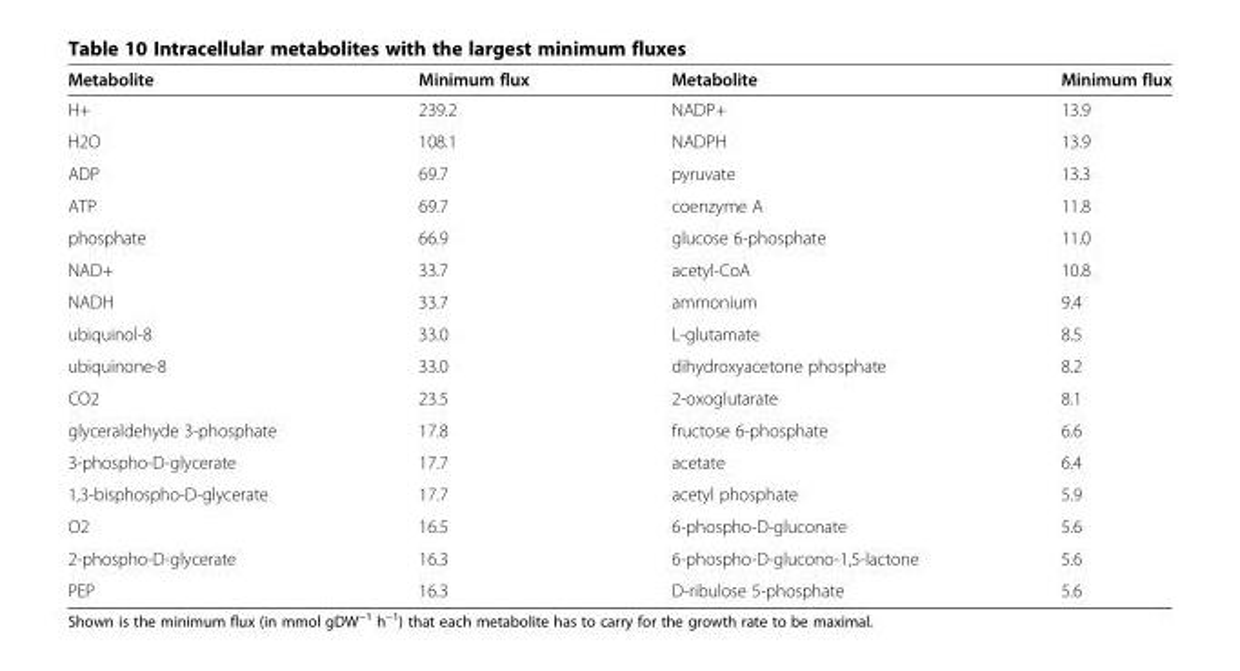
<table><thead><tr><td>Metabolite</td><td>Minimum flux</td><td>Metabolite</td><td>Minimum flux</td></tr></thead><tbody><tr><td>H+</td><td>239.2</td><td>NADP+</td><td>13.9</td></tr><tr><td>H2O</td><td>108.1</td><td>NADPH</td><td>13.9</td></tr><tr><td>ADP</td><td>69.7</td><td>pyruvate</td><td>13.3</td></tr><tr><td>ATP</td><td>69.7</td><td>coenzyme A</td><td>11.8</td></tr><tr><td>phosphate</td><td>66.9</td><td>glucose 6-phosphate</td><td>11.0</td></tr><tr><td>NAD+</td><td>33.7</td><td>acetyl-CoA</td><td>10.8</td></tr><tr><td>NADH</td><td>33.7</td><td>ammonium</td><td>9.4</td></tr><tr><td>ubiquinol-8</td><td>33.0</td><td>L-glutamate</td><td>8.5</td></tr><tr><td>ubiquinone-8</td><td>33.0</td><td>dihydroxyacetone phosphate</td><td>8.2</td></tr><tr><td>CO2</td><td>23.5</td><td>2-oxoglutarate</td><td>8.1</td></tr><tr><td>glyceraldehyde 3-phosphate</td><td>17.8</td><td>fructose 6-phosphate</td><td>6.6</td></tr><tr><td>3-phospho-D-glycerate</td><td>17.7</td><td>acetate</td><td>6.4</td></tr><tr><td>1,3-bisphospho-D-glycerate</td><td>17.7</td><td>acetyl phosphate</td><td>5.9</td></tr><tr><td>O2</td><td>16.5</td><td>6-phospho-D-gluconate</td><td>5.6</td></tr><tr><td>2-phospho-D-glycerate</td><td>16.3</td><td>6-phospho-D-glucono-1,5-lactone</td><td>5.6</td></tr><tr><td>PEP</td><td>16.3</td><td>D-ribulose 5-phosphate</td><td>5.6</td></tr></tbody></table>